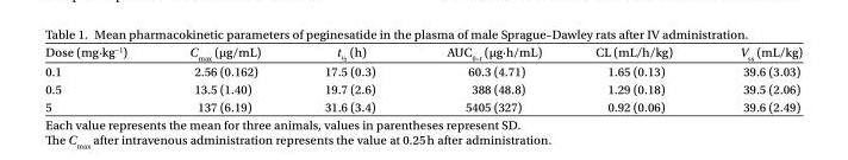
<table><thead><tr><td>Dose (mg·kg<sup>−1</sup>)</td><td>C<sub>max</sub> (µg/mL)</td><td>t<sub>½</sub> (h)</td><td>AUC<sub>0–t</sub> (µg·h/mL)</td><td>CL (mL/h/kg)</td><td>V<sub>ss</sub> (mL/kg)</td></tr></thead><tbody><tr><td>0.1</td><td>2.56 (0.162)</td><td>17.5 (0.3)</td><td>60.3 (4.71)</td><td>1.65 (0.13)</td><td>39.6 (3.03)</td></tr><tr><td>0.5</td><td>13.5 (1.40)</td><td>19.7 (2.6)</td><td>388 (48.8)</td><td>1.29 (0.18)</td><td>39.5 (2.06)</td></tr><tr><td>5</td><td>137 (6.19)</td><td>31.6 (3.4)</td><td>5405 (327)</td><td>0.92 (0.06)</td><td>39.6 (2.49)</td></tr></tbody></table>